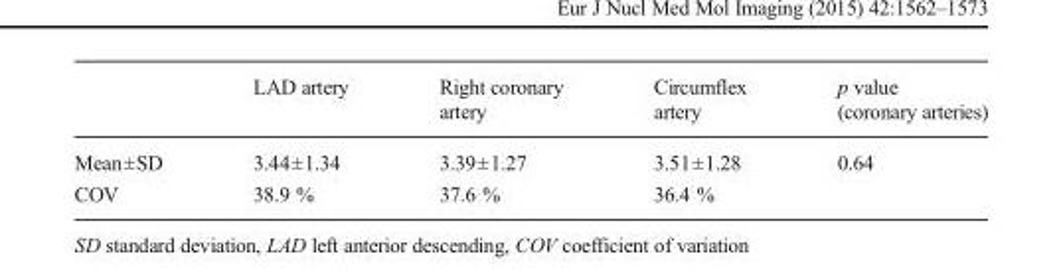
<table><thead><tr><td></td><td>LAD artery</td><td>Right coronary artery</td><td>Circumflex artery</td><td>p value (coronary arteries)</td></tr></thead><tbody><tr><td>Mean±SD</td><td>3.44±1.34</td><td>3.39±1.27</td><td>3.51±1.28</td><td>0.64</td></tr><tr><td>COV</td><td>38.9 %</td><td>37.6 %</td><td>36.4 %</td><td></td></tr></tbody></table>